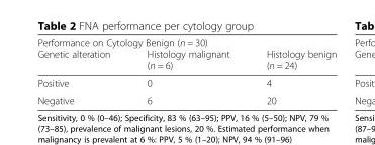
<table><thead><tr><td colspan="3">Performance on Cytology Benign (n = 30)</td></tr><tr><td>Genetic alteration</td><td>Histology malignant (n = 6)</td><td>Histology benign (n = 24)</td></tr></thead><tbody><tr><td>Positive</td><td>0</td><td>4</td></tr><tr><td>Negative</td><td>6</td><td>20</td></tr></tbody></table>